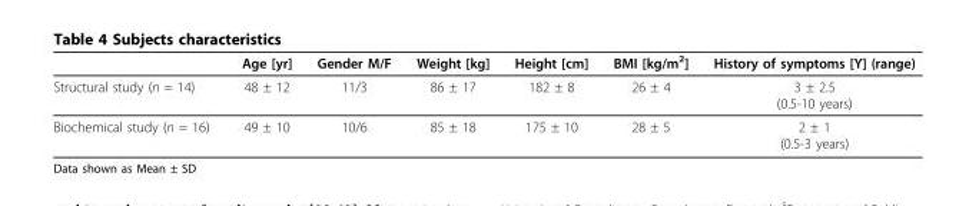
<table><thead><tr><td></td><td>Age [yr]</td><td>Gender M/F</td><td>Weight [kg]</td><td>Height [cm]</td><td>BMI [kg/m<sup>2</sup>]</td><td>History of symptoms [Y] (range)</td></tr></thead><tbody><tr><td>Structural study (n = 14)</td><td>48 ± 12</td><td>11/3</td><td>86 ± 17</td><td>182 ± 8</td><td>26 ± 4</td><td>3 ± 2.5 (0.5-10 years)</td></tr><tr><td>Biochemical study (n = 16)</td><td>49 ± 10</td><td>10/6</td><td>85 ± 18</td><td>175 ± 10</td><td>28 ± 5</td><td>2 ± 1 (0.5-3 years)</td></tr></tbody></table>